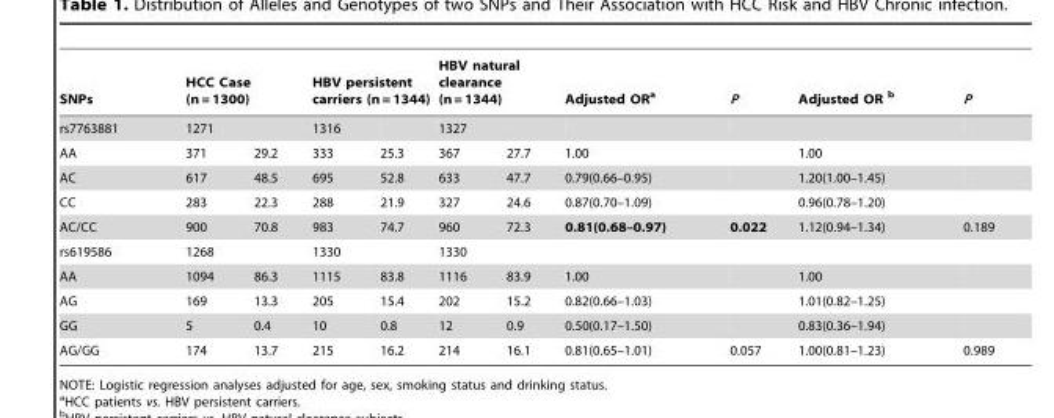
<table><thead><tr><td rowspan="2">SNPs rs7763881</td><td colspan="2">HCC Case (n = 1300)</td><td colspan="2">HBV persistent carriers (n = 1344)</td><td colspan="2">HBV natural clearance (n = 1344)</td><td rowspan="2">Adjusted OR<sup>a</sup></td><td rowspan="2">P</td><td rowspan="2">Adjusted OR b</td><td rowspan="2">P</td></tr><tr><td>1271</td><td></td><td>1316</td><td></td><td>1327</td><td></td></tr></thead><tbody><tr><td>AA</td><td>371</td><td>29.2</td><td>333</td><td>25.3</td><td>367</td><td>27.7</td><td>1.00</td><td></td><td>1.00</td><td></td></tr><tr><td>AC</td><td>617</td><td>48.5</td><td>695</td><td>52.8</td><td>633</td><td>47.7</td><td>0.79(0.66–0.95)</td><td></td><td>1.20(1.00–1.45)</td><td></td></tr><tr><td>CC</td><td>283</td><td>22.3</td><td>288</td><td>21.9</td><td>327</td><td>24.6</td><td>0.87(0.70–1.09)</td><td></td><td>0.96(0.78–1.20)</td><td></td></tr><tr><td>AC/CC</td><td>900</td><td>70.8</td><td>983</td><td>74.7</td><td>960</td><td>72.3</td><td>0.81(0.68–0.97)</td><td>0.022</td><td>1.12(0.94–1.34)</td><td>0.189</td></tr><tr><td>rs619586</td><td>1268</td><td></td><td>1330</td><td></td><td>1330</td><td></td><td></td><td></td><td></td><td></td></tr><tr><td>AA</td><td>1094</td><td>86.3</td><td>1115</td><td>83.8</td><td>1116</td><td>83.9</td><td>1.00</td><td></td><td>1.00</td><td></td></tr><tr><td>AG</td><td>169</td><td>13.3</td><td>205</td><td>15.4</td><td>202</td><td>15.2</td><td>0.82(0.66–1.03)</td><td></td><td>1.01(0.82–1.25)</td><td></td></tr><tr><td>GG</td><td>5</td><td>0.4</td><td>10</td><td>0.8</td><td>12</td><td>0.9</td><td>0.50(0.17–1.50)</td><td></td><td>0.83(0.36–1.94)</td><td></td></tr><tr><td>AG/GG</td><td>174</td><td>13.7</td><td>215</td><td>16.2</td><td>214</td><td>16.1</td><td>0.81(0.65–1.01)</td><td>0.057</td><td>1.00(0.81–1.23)</td><td>0.989</td></tr></tbody></table>